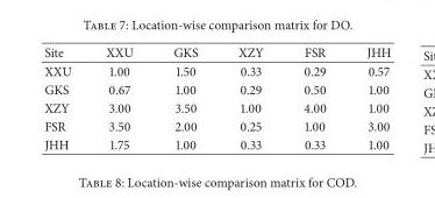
<table><thead><tr><td>Site</td><td>XXU</td><td>GKS</td><td>XZY</td><td>FSR</td><td>JHH</td></tr></thead><tbody><tr><td>XXU</td><td>1.00</td><td>1.50</td><td>0.33</td><td>0.29</td><td>0.57</td></tr><tr><td>GKS</td><td>0.67</td><td>1.00</td><td>0.29</td><td>0.50</td><td>1.00</td></tr><tr><td>XZY</td><td>3.00</td><td>3.50</td><td>1.00</td><td>4.00</td><td>1.00</td></tr><tr><td>FSR</td><td>3.50</td><td>2.00</td><td>0.25</td><td>1.00</td><td>3.00</td></tr><tr><td>JHH</td><td>1.75</td><td>1.00</td><td>0.33</td><td>0.33</td><td>1.00</td></tr></tbody></table>